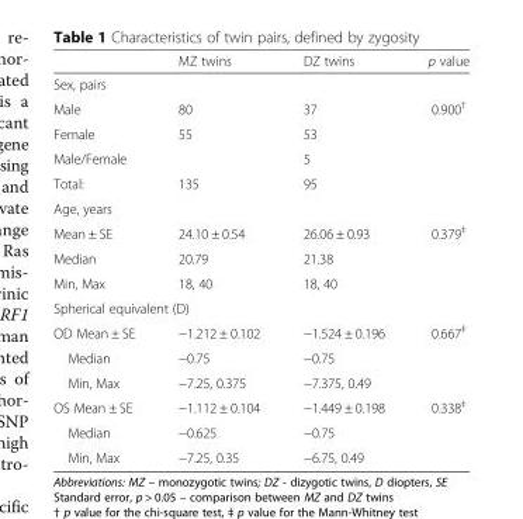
<table><thead><tr><td></td><td>MZ twins</td><td>DZ twins</td><td>p value</td></tr></thead><tbody><tr><td colspan="4">Sex, pairs</td></tr><tr><td>Male</td><td>80</td><td>37</td><td rowspan="4">0.900<sup>†</sup></td></tr><tr><td>Female</td><td>55</td><td>53</td></tr><tr><td>Male/Female</td><td></td><td>5</td></tr><tr><td>Total:</td><td>135</td><td>95</td></tr><tr><td colspan="4">Age, years</td></tr><tr><td>Mean ± SE</td><td>24.10 ± 0.54</td><td>26.06 ± 0.93</td><td rowspan="3">0.379<sup>‡</sup></td></tr><tr><td>Median</td><td>20.79</td><td>21.38</td></tr><tr><td>Min, Max</td><td>18, 40</td><td>18, 40</td></tr><tr><td colspan="4">Spherical equivalent (D)</td></tr><tr><td>OD Mean ± SE</td><td>−1.212 ± 0.102</td><td>−1.524 ± 0.196</td><td rowspan="3">0.667<sup>‡</sup></td></tr><tr><td>Median</td><td>−0.75</td><td>−0.75</td></tr><tr><td>Min, Max</td><td>−7.25, 0.375</td><td>−7.375, 0.49</td></tr><tr><td>OS Mean ± SE</td><td>−1.112 ± 0.104</td><td>−1.449 ± 0.198</td><td rowspan="3">0.338<sup>‡</sup></td></tr><tr><td>Median</td><td>−0.625</td><td>−0.75</td></tr><tr><td>Min, Max</td><td>−7.25, 0.35</td><td>−6.75, 0.49</td></tr></tbody></table>